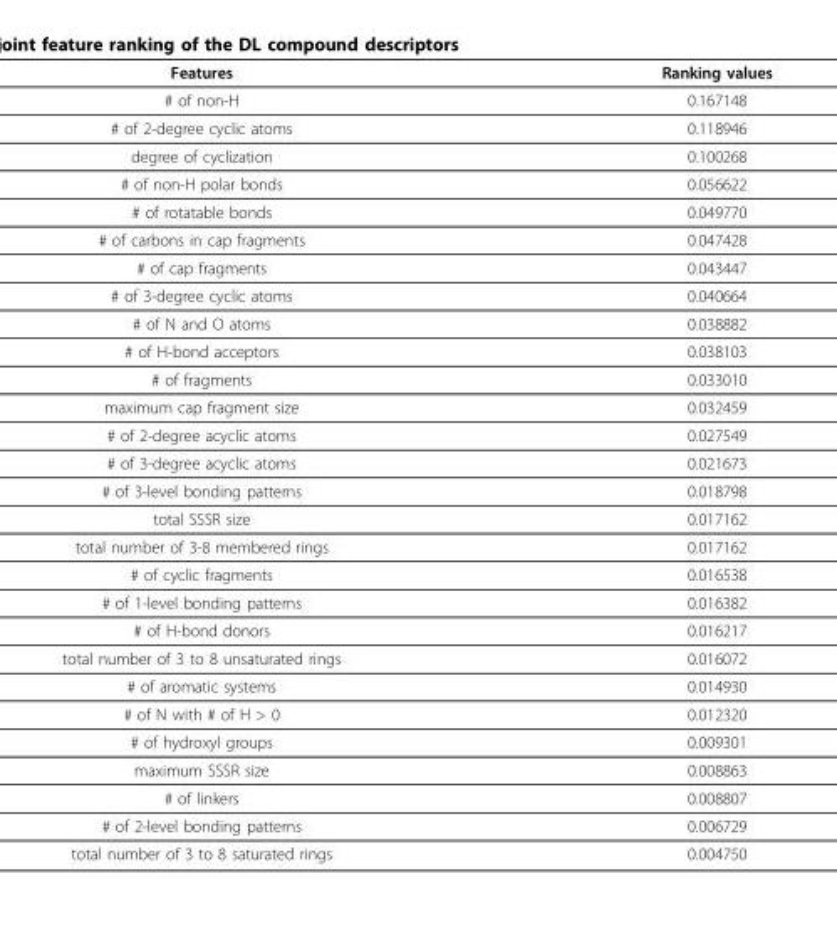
<table><thead><tr><td>Features</td><td>Ranking values</td></tr></thead><tbody><tr><td># of non-H</td><td>0.167148</td></tr><tr><td># of 2-degree cyclic atoms</td><td>0.118946</td></tr><tr><td>degree of cyclization</td><td>0.100268</td></tr><tr><td># of non-H polar bonds</td><td>0.056622</td></tr><tr><td># of rotatable bonds</td><td>0.049770</td></tr><tr><td># of carbons in cap fragments</td><td>0.047428</td></tr><tr><td># of cap fragments</td><td>0.043447</td></tr><tr><td># of 3-degree cyclic atoms</td><td>0.040664</td></tr><tr><td># of N and O atoms</td><td>0.038882</td></tr><tr><td># of H-bond acceptors</td><td>0.038103</td></tr><tr><td># of fragments</td><td>0.033010</td></tr><tr><td>maximum cap fragment size</td><td>0.032459</td></tr><tr><td># of 2-degree acyclic atoms</td><td>0.027549</td></tr><tr><td># of 3-degree acyclic atoms</td><td>0.021673</td></tr><tr><td># of 3-level bonding patterns</td><td>0.018798</td></tr><tr><td>total SSSR size</td><td>0.017162</td></tr><tr><td>total number of 3-8 membered rings</td><td>0.017162</td></tr><tr><td># of cyclic fragments</td><td>0.016538</td></tr><tr><td># of 1-level bonding patterns</td><td>0.016382</td></tr><tr><td># of H-bond donors</td><td>0.016217</td></tr><tr><td>total number of 3 to 8 unsaturated rings</td><td>0.016072</td></tr><tr><td># of aromatic systems</td><td>0.014930</td></tr><tr><td># of N with # of H &gt; 0</td><td>0.012320</td></tr><tr><td># of hydroxyl groups</td><td>0.009301</td></tr><tr><td>maximum SSSR size</td><td>0.008863</td></tr><tr><td># of linkers</td><td>0.008807</td></tr><tr><td># of 2-level bonding patterns</td><td>0.006729</td></tr><tr><td>total number of 3 to 8 saturated rings</td><td>0.004750</td></tr></tbody></table>